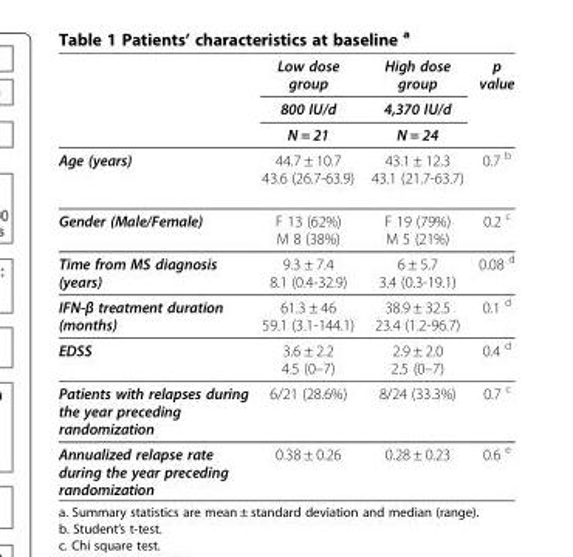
<table><thead><tr><td rowspan="3"></td><td rowspan="3">Low dose group 800 IU/d N = 21</td><td rowspan="3">High dose group 4,370 IU/d N = 24</td><td rowspan="3">p value</td></tr><tr></tr><tr></tr></thead><tbody><tr><td rowspan="2">Age (years)</td><td>44.7 ± 10.7</td><td>43.1 ± 12.3</td><td rowspan="2">0.7 <sup>b</sup></td></tr><tr><td>43.6 (26.7-63.9)</td><td>43.1 (21.7-63.7)</td></tr><tr><td rowspan="2">Gender (Male/Female)</td><td>F 13 (62%)</td><td>F 19 (79%)</td><td rowspan="2">0.2 <sup>c</sup></td></tr><tr><td>M 8 (38%)</td><td>M 5 (21%)</td></tr><tr><td rowspan="2">Time from MS diagnosis (years)</td><td>9.3 ± 7.4</td><td>6 ± 5.7</td><td rowspan="2">0.08 <sup>d</sup></td></tr><tr><td>8.1 (0.4-32.9)</td><td>3.4 (0.3-19.1)</td></tr><tr><td rowspan="2">IFN-β treatment duration (months)</td><td>61.3 ± 46</td><td>38.9 ± 32.5</td><td rowspan="2">0.1 <sup>d</sup></td></tr><tr><td>59.1 (3.1-144.1)</td><td>23.4 (1.2-96.7)</td></tr><tr><td rowspan="2">EDSS</td><td>3.6 ± 2.2</td><td>2.9 ± 2.0</td><td rowspan="2">0.4 <sup>d</sup></td></tr><tr><td>4.5 (0–7)</td><td>2.5 (0–7)</td></tr><tr><td>Patients with relapses during the year preceding randomization</td><td>6/21 (28.6%)</td><td>8/24 (33.3%)</td><td>0.7 <sup>c</sup></td></tr><tr><td>Annualized relapse rate during the year preceding randomization</td><td>0.38 ± 0.26</td><td>0.28 ± 0.23</td><td>0.6 <sup>e</sup></td></tr></tbody></table>